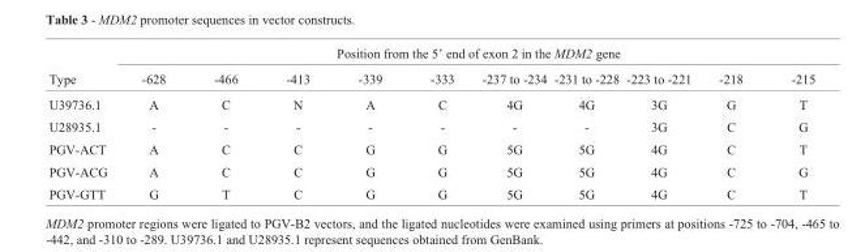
<table><thead><tr><td rowspan="2">Type</td><td colspan="10">Position from the 5’ end of exon 2 in the MDM2 gene</td></tr><tr><td>-628</td><td>-466</td><td>-413</td><td>-339</td><td>-333</td><td>-237 to -234</td><td>-231 to -228</td><td>-223 to -221</td><td>-218</td><td>-215</td></tr></thead><tbody><tr><td>U39736.1</td><td>A</td><td>C</td><td>N</td><td>A</td><td>C</td><td>4G</td><td>4G</td><td>3G</td><td>G</td><td>T</td></tr><tr><td>U28935.1</td><td>-</td><td>-</td><td>-</td><td>-</td><td>-</td><td>-</td><td>-</td><td>3G</td><td>C</td><td>G</td></tr><tr><td>PGV-ACT</td><td>A</td><td>C</td><td>C</td><td>G</td><td>G</td><td>5G</td><td>5G</td><td>4G</td><td>C</td><td>T</td></tr><tr><td>PGV-ACG</td><td>A</td><td>C</td><td>C</td><td>G</td><td>G</td><td>5G</td><td>5G</td><td>4G</td><td>C</td><td>G</td></tr><tr><td>PGV-GTT</td><td>G</td><td>T</td><td>C</td><td>G</td><td>G</td><td>5G</td><td>5G</td><td>4G</td><td>C</td><td>T</td></tr></tbody></table>